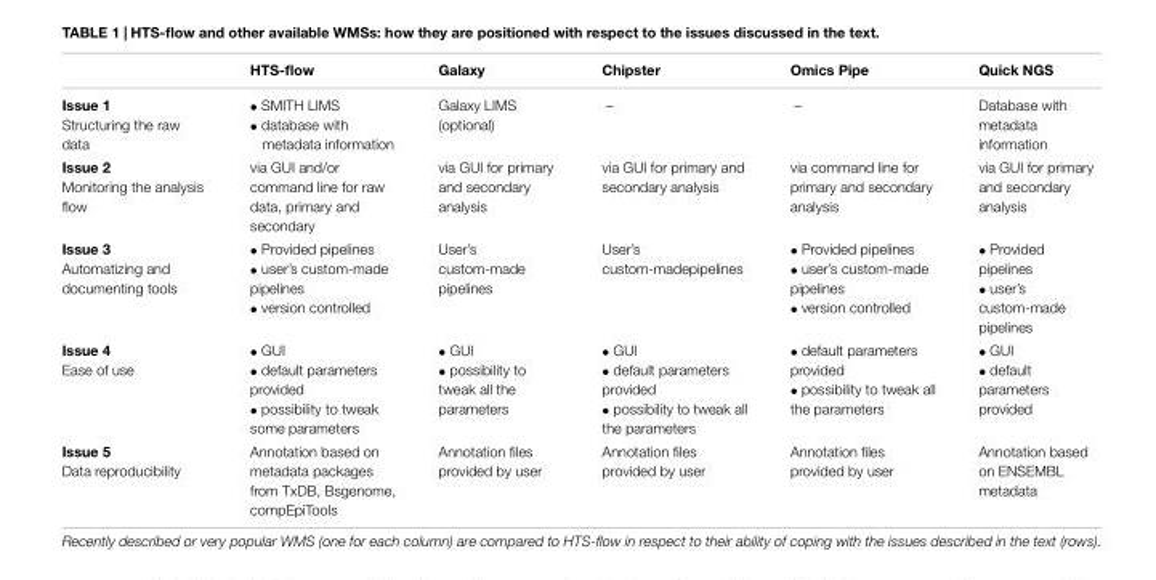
<table><thead><tr><td></td><td>HTS-flow</td><td>Galaxy</td><td>Chipster</td><td>Omics Pipe</td><td>Quick NGS</td></tr></thead><tbody><tr><td>Issue 1 Structuring the raw data</td><td>• SMITH LIMS • database with metadata information</td><td>Galaxy LIMS (optional)</td><td>–</td><td>–</td><td>Database with metadata information</td></tr><tr><td>Issue 2 Monitoring the analysis flow</td><td>via GUI and/or command line for raw data, primary and secondary</td><td>via GUI for primary and secondary analysis</td><td>via GUI for primary and secondary analysis</td><td>via command line for primary and secondary analysis</td><td>via GUI for primary and secondary analysis</td></tr><tr><td>Issue 3 Automatizing and documenting tools</td><td>• Provided pipelines • user’s custom-made pipelines • version controlled</td><td>User’s custom-made pipelines</td><td>User’s custom-madepipelines</td><td>• Provided pipelines • user’s custom-made pipelines • version controlled</td><td>• Provided pipelines • user’s custom-made pipelines</td></tr><tr><td>Issue 4 Ease of use</td><td>• GUI • default parameters provided • possibility to tweak some parameters</td><td>• GUI • possibility to tweak all the parameters</td><td>• GUI • default parameters provided • possibility to tweak all the parameters</td><td>• default parameters provided • possibility to tweak all the parameters</td><td>• GUI • default parameters provided</td></tr><tr><td>Issue 5 Data reproducibility</td><td>Annotation based on metadata packages from TxDB, Bsgenome, compEpiTools</td><td>Annotation files provided by user</td><td>Annotation files provided by user</td><td>Annotation files provided by user</td><td>Annotation based on ENSEMBL metadata</td></tr></tbody></table>